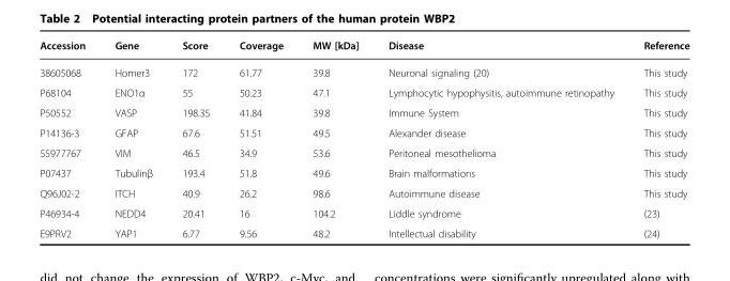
<table><thead><tr><td>Accession</td><td>Gene</td><td>Score</td><td>Coverage</td><td>MW [kDa]</td><td>Disease</td><td>Reference</td></tr></thead><tbody><tr><td>38605068</td><td>Homer3</td><td>172</td><td>61.77</td><td>39.8</td><td>Neuronal signaling (20)</td><td>This study</td></tr><tr><td>P68104</td><td>ENO1α</td><td>55</td><td>50.23</td><td>47.1</td><td>Lymphocytic hypophysitis, autoimmune retinopathy</td><td>This study</td></tr><tr><td>P50552</td><td>VASP</td><td>198.35</td><td>41.84</td><td>39.8</td><td>Immune System</td><td>This study</td></tr><tr><td>P14136-3</td><td>GFAP</td><td>67.6</td><td>51.51</td><td>49.5</td><td>Alexander disease</td><td>This study</td></tr><tr><td>55977767</td><td>VIM</td><td>46.5</td><td>34.9</td><td>53.6</td><td>Peritoneal mesothelioma</td><td>This study</td></tr><tr><td>P07437</td><td>Tubulinβ</td><td>193.4</td><td>51.8</td><td>49.6</td><td>Brain malformations</td><td>This study</td></tr><tr><td>Q96J02-2</td><td>ITCH</td><td>40.9</td><td>26.2</td><td>98.6</td><td>Autoimmune disease</td><td>This study</td></tr><tr><td>P46934-4</td><td>NEDD4</td><td>20.41</td><td>16</td><td>104.2</td><td>Liddle syndrome</td><td>(23)</td></tr><tr><td>E9PRV2</td><td>YAP1</td><td>6.77</td><td>9.56</td><td>48.2</td><td>Intellectual disability</td><td>(24)</td></tr></tbody></table>